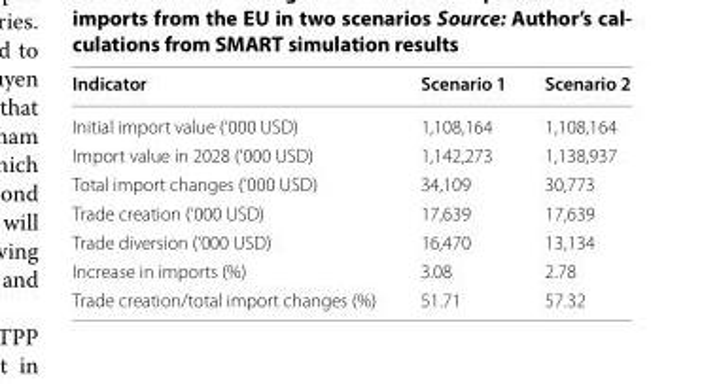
<table><thead><tr><td>Indicator</td><td>Scenario 1</td><td>Scenario 2</td></tr></thead><tbody><tr><td>Initial import value (‘000 USD)</td><td>1,108,164</td><td>1,108,164</td></tr><tr><td>Import value in 2028 (‘000 USD)</td><td>1,142,273</td><td>1,138,937</td></tr><tr><td>Total import changes (‘000 USD)</td><td>34,109</td><td>30,773</td></tr><tr><td>Trade creation (‘000 USD)</td><td>17,639</td><td>17,639</td></tr><tr><td>Trade diversion (‘000 USD)</td><td>16,470</td><td>13,134</td></tr><tr><td>Increase in imports (%)</td><td>3.08</td><td>2.78</td></tr><tr><td>Trade creation/total import changes (%)</td><td>51.71</td><td>57.32</td></tr></tbody></table>